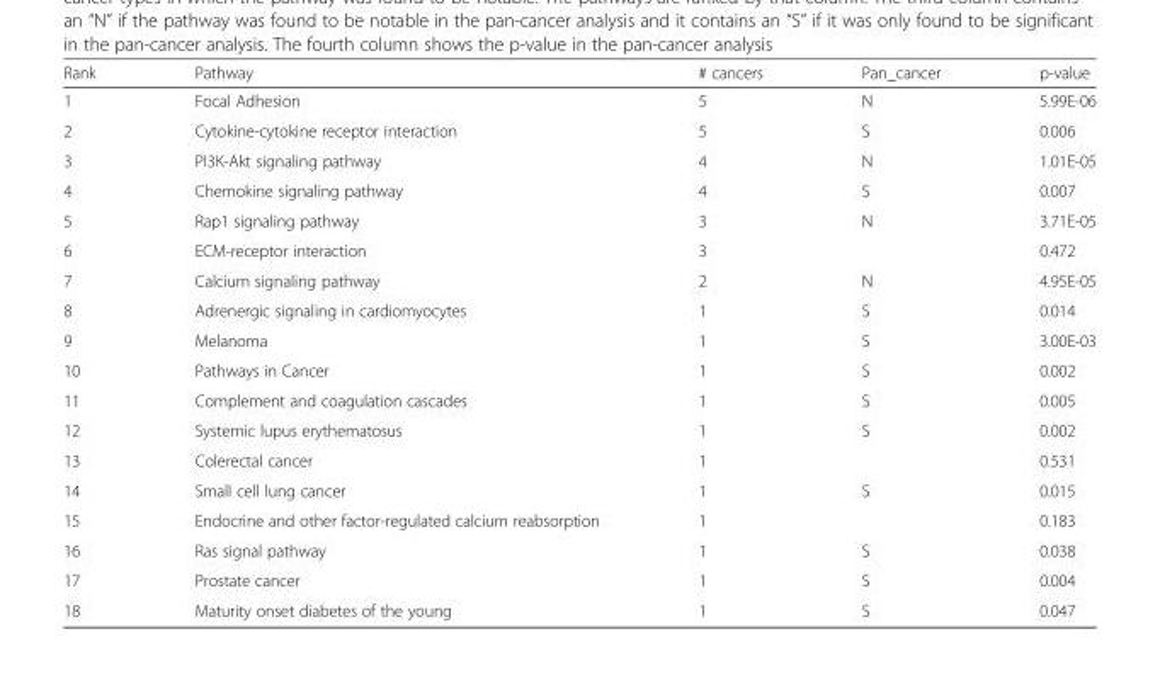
<table><thead><tr><td>Rank</td><td>Pathway</td><td># cancers</td><td>Pan_cancer</td><td>p-value</td></tr></thead><tbody><tr><td>1</td><td>Focal Adhesion</td><td>5</td><td>N</td><td>5.99E-06</td></tr><tr><td>2</td><td>Cytokine-cytokine receptor interaction</td><td>5</td><td>S</td><td>0.006</td></tr><tr><td>3</td><td>PI3K-Akt signaling pathway</td><td>4</td><td>N</td><td>1.01E-05</td></tr><tr><td>4</td><td>Chemokine signaling pathway</td><td>4</td><td>S</td><td>0.007</td></tr><tr><td>5</td><td>Rap1 signaling pathway</td><td>3</td><td>N</td><td>3.71E-05</td></tr><tr><td>6</td><td>ECM-receptor interaction</td><td>3</td><td></td><td>0.472</td></tr><tr><td>7</td><td>Calcium signaling pathway</td><td>2</td><td>N</td><td>4.95E-05</td></tr><tr><td>8</td><td>Adrenergic signaling in cardiomyocytes</td><td>1</td><td>S</td><td>0.014</td></tr><tr><td>9</td><td>Melanoma</td><td>1</td><td>S</td><td>3.00E-03</td></tr><tr><td>10</td><td>Pathways in Cancer</td><td>1</td><td>S</td><td>0.002</td></tr><tr><td>11</td><td>Complement and coagulation cascades</td><td>1</td><td>S</td><td>0.005</td></tr><tr><td>12</td><td>Systemic lupus erythematosus</td><td>1</td><td>S</td><td>0.002</td></tr><tr><td>13</td><td>Colerectal cancer</td><td>1</td><td></td><td>0.531</td></tr><tr><td>14</td><td>Small cell lung cancer</td><td>1</td><td>S</td><td>0.015</td></tr><tr><td>15</td><td>Endocrine and other factor-regulated calcium reabsorption</td><td>1</td><td></td><td>0.183</td></tr><tr><td>16</td><td>Ras signal pathway</td><td>1</td><td>S</td><td>0.038</td></tr><tr><td>17</td><td>Prostate cancer</td><td>1</td><td>S</td><td>0.004</td></tr><tr><td>18</td><td>Maturity onset diabetes of the young</td><td>1</td><td>S</td><td>0.047</td></tr></tbody></table>